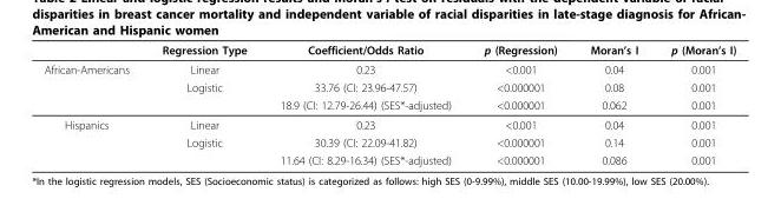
<table><thead><tr><td></td><td>Regression Type</td><td>Coefficient/Odds Ratio</td><td>p (Regression)</td><td>Moran’s I</td><td>p (Moran’s I)</td></tr></thead><tbody><tr><td rowspan="3">African-Americans</td><td>Linear</td><td>0.23</td><td>&lt;0.001</td><td>0.04</td><td>0.001</td></tr><tr><td>Logistic</td><td>33.76 (CI: 23.96-47.57)</td><td>&lt;0.000001</td><td>0.08</td><td>0.001</td></tr><tr><td></td><td>18.9 (CI: 12.79-26.44) (SES*-adjusted)</td><td>&lt;0.000001</td><td>0.062</td><td>0.001</td></tr><tr><td rowspan="3">Hispanics</td><td>Linear</td><td>0.23</td><td>&lt;0.001</td><td>0.04</td><td>0.001</td></tr><tr><td>Logistic</td><td>30.39 (CI: 22.09-41.82)</td><td>&lt;0.000001</td><td>0.14</td><td>0.001</td></tr><tr><td></td><td>11.64 (CI: 8.29-16.34) (SES*-adjusted)</td><td>&lt;0.000001</td><td>0.086</td><td>0.001</td></tr></tbody></table>